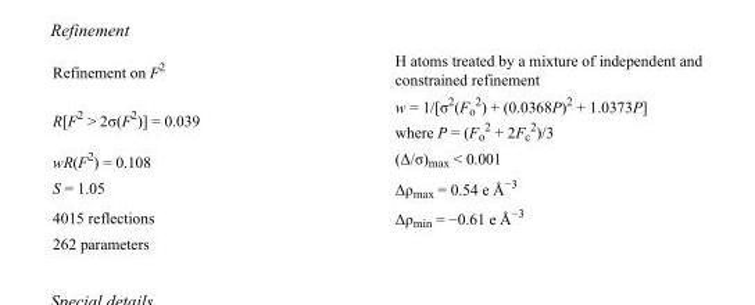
<table><tbody><tr><td>Refinement on F<sup>2</sup></td><td>H atoms treated by a mixture of independent and constrained refinement</td></tr><tr><td>R[F<sup>2</sup> &gt; 2σ(F<sup>2</sup>)] = 0.039</td><td>w = 1/[σ<sup>2</sup>(F<sub>o</sub> <sup>2</sup>) + (0.0368P)<sup>2</sup> + 1.0373P] where P = (F<sub>o</sub> <sup>2</sup> + 2F<sub>c</sub> <sup>2</sup>)/3</td></tr><tr><td>wR(F<sup>2</sup>) = 0.108</td><td>(Δ/σ)<sub>max</sub> &lt; 0.001</td></tr><tr><td>S = 1.05</td><td>Δρ<sub>max</sub> = 0.54 e Å<sup>−3</sup></td></tr><tr><td>4015 reflections</td><td>Δρ<sub>min</sub> = −0.61 e Å<sup>−3</sup></td></tr><tr><td>262 parameters</td><td></td></tr></tbody></table>